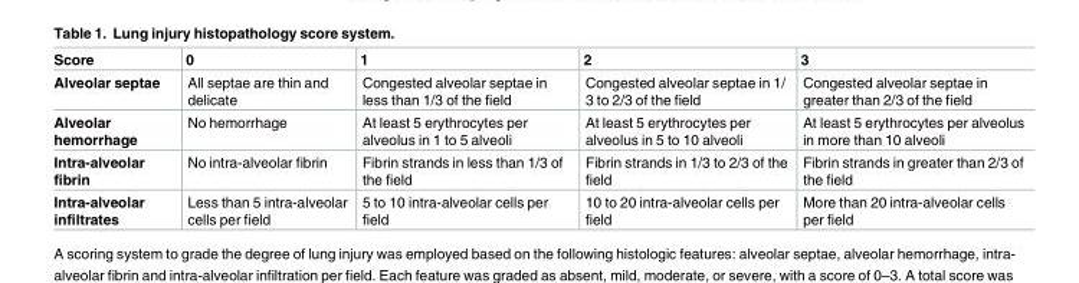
<table><thead><tr><td>Score</td><td>0</td><td>1</td><td>2</td><td>3</td></tr></thead><tbody><tr><td>Alveolar septae</td><td>All septae are thin and delicate</td><td>Congested alveolar septae in less than 1/3 of the field</td><td>Congested alveolar septae in 1/ 3 to 2/3 of the field</td><td>Congested alveolar septae in greater than 2/3 of the field</td></tr><tr><td>Alveolar hemorrhage</td><td>No hemorrhage</td><td>At least 5 erythrocytes per alveolus in 1 to 5 alveoli</td><td>At least 5 erythrocytes per alveolus in 5 to 10 alveoli</td><td>At least 5 erythrocytes per alveolus in more than 10 alveoli</td></tr><tr><td>Intra-alveolar fibrin</td><td>No intra-alveolar fibrin</td><td>Fibrin strands in less than 1/3 of the field</td><td>Fibrin strands in 1/3 to 2/3 of the field</td><td>Fibrin strands in greater than 2/3 of the field</td></tr><tr><td>Intra-alveolar infiltrates</td><td>Less than 5 intra-alveolar cells per field</td><td>5 to 10 intra-alveolar cells per field</td><td>10 to 20 intra-alveolar cells per field</td><td>More than 20 intra-alveolar cells per field</td></tr></tbody></table>